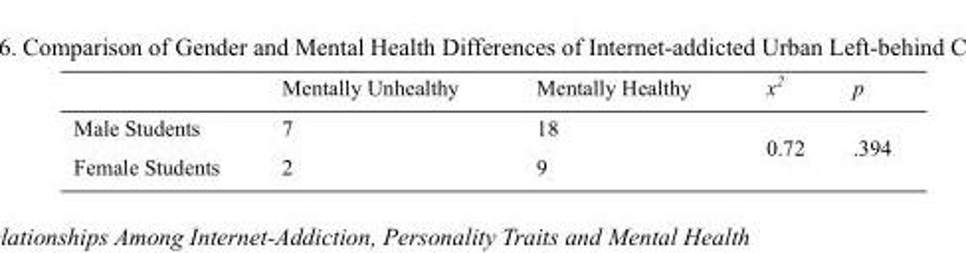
<table><thead><tr><td></td><td>Mentally Unhealthy</td><td>Mentally Healthy</td><td>x<sup>2</sup></td><td>p</td></tr></thead><tbody><tr><td>Male Students</td><td>7</td><td>18</td><td rowspan="2">0.72</td><td rowspan="2">.394</td></tr><tr><td>Female Students</td><td>2</td><td>9</td></tr></tbody></table>